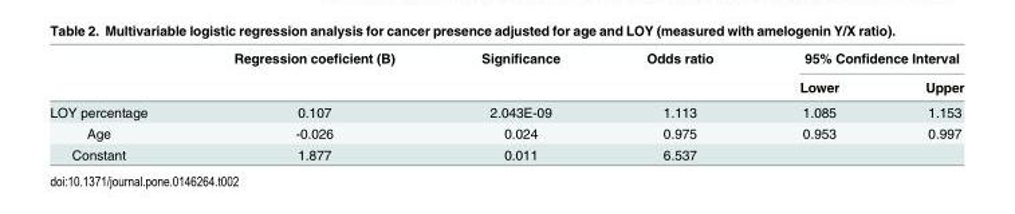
<table><thead><tr><td rowspan="2"></td><td rowspan="2">Regression coeficient (B)</td><td rowspan="2">Significance</td><td rowspan="2">Odds ratio</td><td colspan="2">95% Confidence Interval</td></tr><tr><td>Lower</td><td>Upper</td></tr></thead><tbody><tr><td>LOY percentage</td><td>0.107</td><td>2.043E-09</td><td>1.113</td><td>1.085</td><td>1.153</td></tr><tr><td>Age</td><td>-0.026</td><td>0.024</td><td>0.975</td><td>0.953</td><td>0.997</td></tr><tr><td>Constant</td><td>1.877</td><td>0.011</td><td>6.537</td><td></td><td></td></tr></tbody></table>